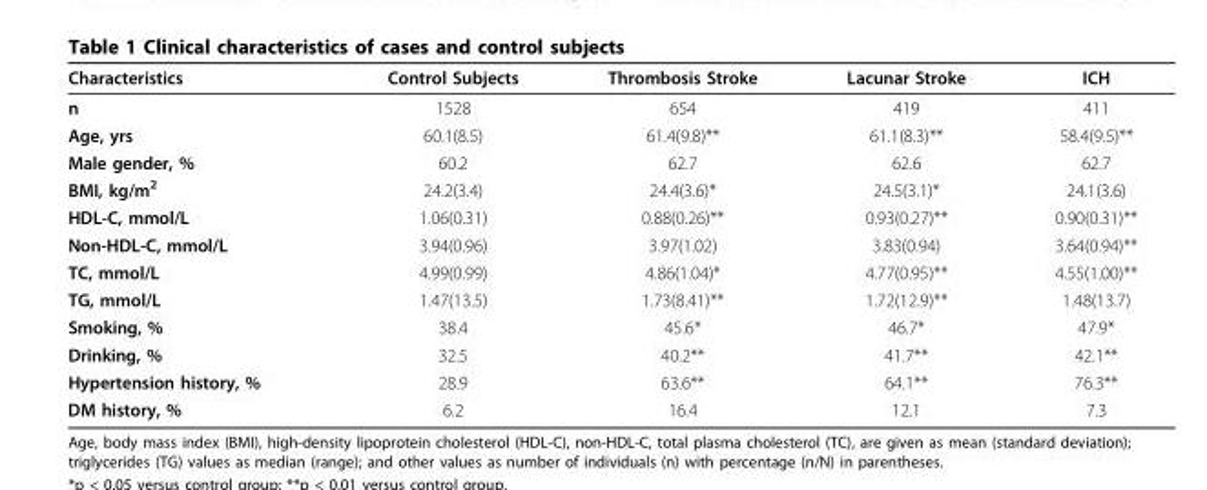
<table><thead><tr><td>Characteristics</td><td>Control Subjects</td><td>Thrombosis Stroke</td><td>Lacunar Stroke</td><td>ICH</td></tr></thead><tbody><tr><td>n</td><td>1528</td><td>654</td><td>419</td><td>411</td></tr><tr><td>Age, yrs</td><td>60.1(8.5)</td><td>61.4(9.8)**</td><td>61.1(8.3)**</td><td>58.4(9.5)**</td></tr><tr><td>Male gender, %</td><td>60.2</td><td>62.7</td><td>62.6</td><td>62.7</td></tr><tr><td>BMI, kg/m<sup>2</sup></td><td>24.2(3.4)</td><td>24.4(3.6)*</td><td>24.5(3.1)*</td><td>24.1(3.6)</td></tr><tr><td>HDL-C, mmol/L</td><td>1.06(0.31)</td><td>0.88(0.26)**</td><td>0.93(0.27)**</td><td>0.90(0.31)**</td></tr><tr><td>Non-HDL-C, mmol/L</td><td>3.94(0.96)</td><td>3.97(1.02)</td><td>3.83(0.94)</td><td>3.64(0.94)**</td></tr><tr><td>TC, mmol/L</td><td>4.99(0.99)</td><td>4.86(1.04)*</td><td>4.77(0.95)**</td><td>4.55(1.00)**</td></tr><tr><td>TG, mmol/L</td><td>1.47(13.5)</td><td>1.73(8.41)**</td><td>1.72(12.9)**</td><td>1.48(13.7)</td></tr><tr><td>Smoking, %</td><td>38.4</td><td>45.6*</td><td>46.7*</td><td>47.9*</td></tr><tr><td>Drinking, %</td><td>32.5</td><td>40.2**</td><td>41.7**</td><td>42.1**</td></tr><tr><td>Hypertension history, %</td><td>28.9</td><td>63.6**</td><td>64.1**</td><td>76.3**</td></tr><tr><td>DM history, %</td><td>6.2</td><td>16.4</td><td>12.1</td><td>7.3</td></tr></tbody></table>